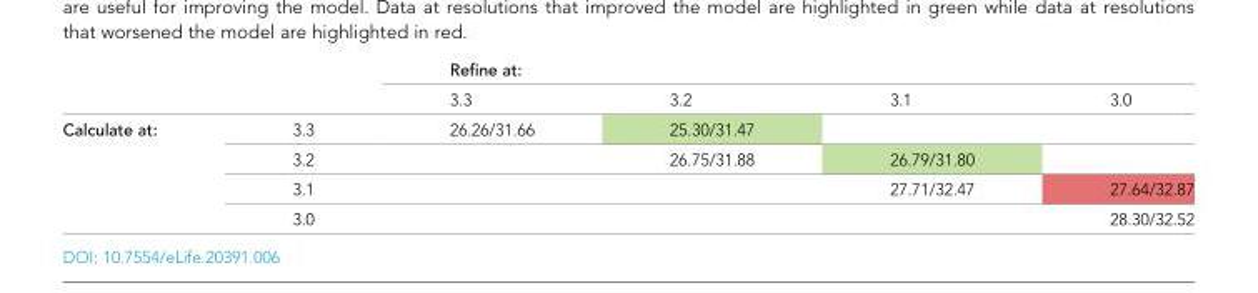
<table><thead><tr><td rowspan="2"></td><td rowspan="2"></td><td colspan="4">Refine at:</td></tr><tr><td>3.3</td><td>3.2</td><td>3.1</td><td>3.0</td></tr></thead><tbody><tr><td rowspan="4">Calculate at:</td><td>3.3</td><td>26.26/31.66</td><td>25.30/31.47</td><td></td><td></td></tr><tr><td>3.2</td><td></td><td>26.75/31.88</td><td>26.79/31.80</td><td></td></tr><tr><td>3.1</td><td></td><td></td><td>27.71/32.47</td><td>27.64/32.87</td></tr><tr><td>3.0</td><td></td><td></td><td></td><td>28.30/32.52</td></tr></tbody></table>